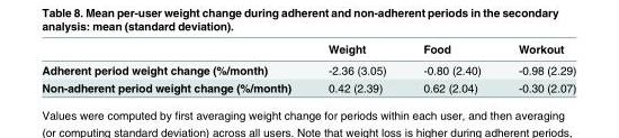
<table><thead><tr><td></td><td>Weight</td><td>Food</td><td>Workout</td></tr></thead><tbody><tr><td>Adherent period weight change (%/month)</td><td>-2.36 (3.05)</td><td>-0.80 (2.40)</td><td>-0.98 (2.29)</td></tr><tr><td>Non-adherent period weight change (%/month)</td><td>0.42 (2.39)</td><td>0.62 (2.04)</td><td>-0.30 (2.07)</td></tr></tbody></table>